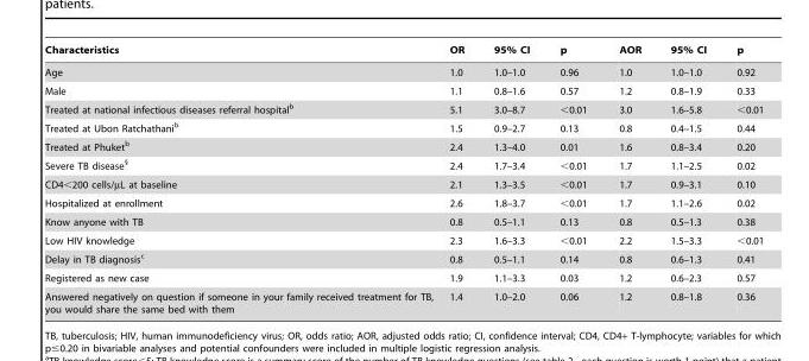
<table><thead><tr><td>Characteristics</td><td>OR</td><td>95% CI</td><td>p</td><td>AOR</td><td>95% CI</td><td>p</td></tr></thead><tbody><tr><td>Age</td><td>1.0</td><td>1.0–1.0</td><td>0.96</td><td>1.0</td><td>1.0–1.0</td><td>0.92</td></tr><tr><td>Male</td><td>1.1</td><td>0.8–1.6</td><td>0.57</td><td>1.2</td><td>0.8–1.9</td><td>0.33</td></tr><tr><td>Treated at national infectious diseases referral hospital<sup>b</sup></td><td>5.1</td><td>3.0–8.7</td><td>&lt;0.01</td><td>3.0</td><td>1.6–5.8</td><td>&lt;0.01</td></tr><tr><td>Treated at Ubon Ratchathani<sup>b</sup></td><td>1.5</td><td>0.9–2.7</td><td>0.13</td><td>0.8</td><td>0.4–1.5</td><td>0.44</td></tr><tr><td>Treated at Phuket<sup>b</sup></td><td>2.4</td><td>1.3–4.0</td><td>0.01</td><td>1.6</td><td>0.8–3.4</td><td>0.20</td></tr><tr><td>Severe TB disease<sup>§</sup></td><td>2.4</td><td>1.7–3.4</td><td>&lt;0.01</td><td>1.7</td><td>1.1–2.5</td><td>0.02</td></tr><tr><td>CD4&lt;200 cells/µL at baseline</td><td>2.1</td><td>1.3–3.5</td><td>&lt;0.01</td><td>1.7</td><td>0.9–3.1</td><td>0.10</td></tr><tr><td>Hospitalized at enrollment</td><td>2.6</td><td>1.8–3.7</td><td>&lt;0.01</td><td>1.7</td><td>1.1–2.6</td><td>0.02</td></tr><tr><td>Know anyone with TB</td><td>0.8</td><td>0.5–1.1</td><td>0.13</td><td>0.8</td><td>0.5–1.3</td><td>0.38</td></tr><tr><td>Low HIV knowledge</td><td>2.3</td><td>1.6–3.3</td><td>&lt;0.01</td><td>2.2</td><td>1.5–3.3</td><td>&lt;0.01</td></tr><tr><td>Delay in TB diagnosis<sup>c</sup></td><td>0.8</td><td>0.5–1.1</td><td>0.14</td><td>0.8</td><td>0.6–1.3</td><td>0.41</td></tr><tr><td>Registered as new case</td><td>1.9</td><td>1.1–3.3</td><td>0.03</td><td>1.2</td><td>0.6–2.3</td><td>0.57</td></tr><tr><td>Answered negatively on question if someone in your family received treatment for TB, you would share the same bed with them</td><td>1.4</td><td>1.0–2.0</td><td>0.06</td><td>1.2</td><td>0.8–1.8</td><td>0.36</td></tr></tbody></table>